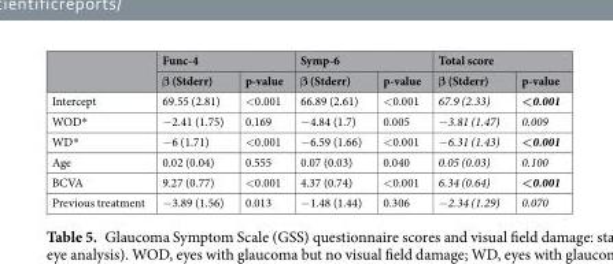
<table><thead><tr><td rowspan="2"></td><td colspan="2">Func-4</td><td colspan="2">Symp-6</td><td colspan="2">Total score</td></tr><tr><td>β (Stderr)</td><td>p-value</td><td>β (Stderr)</td><td>p-value</td><td>β (Stderr)</td><td>p-value</td></tr></thead><tbody><tr><td>Intercept</td><td>69.55 (2.81)</td><td>&lt;0.001</td><td>66.89 (2.61)</td><td>&lt;0.001</td><td>67.9 (2.33)</td><td>&lt;0.001</td></tr><tr><td>WOD*</td><td>−2.41 (1.75)</td><td>0.169</td><td>−4.84 (1.7)</td><td>0.005</td><td>−3.81 (1.47)</td><td>0.009</td></tr><tr><td>WD*</td><td>−6 (1.71)</td><td>&lt;0.001</td><td>−6.59 (1.66)</td><td>&lt;0.001</td><td>−6.31 (1.43)</td><td>&lt;0.001</td></tr><tr><td>Age</td><td>0.02 (0.04)</td><td>0.555</td><td>0.07 (0.03)</td><td>0.040</td><td>0.05 (0.03)</td><td>0.100</td></tr><tr><td>BCVA</td><td>9.27 (0.77)</td><td>&lt;0.001</td><td>4.37 (0.74)</td><td>&lt;0.001</td><td>6.34 (0.64)</td><td>&lt;0.001</td></tr><tr><td>Previous treatment</td><td>−3.89 (1.56)</td><td>0.013</td><td>−1.48 (1.44)</td><td>0.306</td><td>−2.34 (1.29)</td><td>0.070</td></tr></tbody></table>